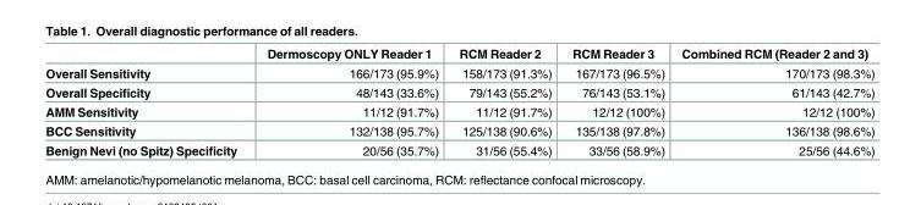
<table><thead><tr><td></td><td>Dermoscopy ONLY Reader 1</td><td>RCM Reader 2</td><td>RCM Reader 3</td><td>Combined RCM (Reader 2 and 3)</td></tr></thead><tbody><tr><td>Overall Sensitivity</td><td>166/173 (95.9%)</td><td>158/173 (91.3%)</td><td>167/173 (96.5%)</td><td>170/173 (98.3%)</td></tr><tr><td>Overall Specificity</td><td>48/143 (33.6%)</td><td>79/143 (55.2%)</td><td>76/143 (53.1%)</td><td>61/143 (42.7%)</td></tr><tr><td>AMM Sensitivity</td><td>11/12 (91.7%)</td><td>11/12 (91.7%)</td><td>12/12 (100%)</td><td>12/12 (100%)</td></tr><tr><td>BCC Sensitivity</td><td>132/138 (95.7%)</td><td>125/138 (90.6%)</td><td>135/138 (97.8%)</td><td>136/138 (98.6%)</td></tr><tr><td>Benign Nevi (no Spitz) Specificity</td><td>20/56 (35.7%)</td><td>31/56 (55.4%)</td><td>33/56 (58.9%)</td><td>25/56 (44.6%)</td></tr></tbody></table>